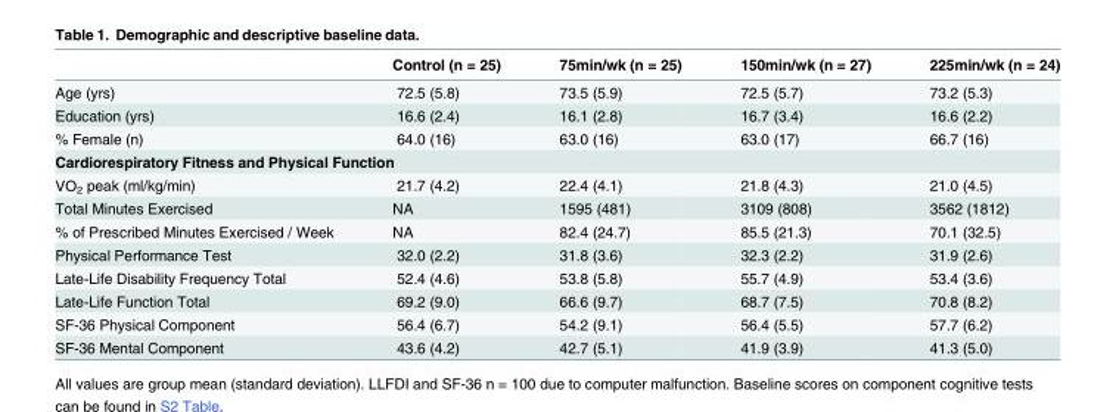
<table><thead><tr><td></td><td>Control (n = 25)</td><td>75min/wk (n = 25)</td><td>150min/wk (n = 27)</td><td>225min/wk (n = 24)</td></tr></thead><tbody><tr><td>Age (yrs)</td><td>72.5 (5.8)</td><td>73.5 (5.9)</td><td>72.5 (5.7)</td><td>73.2 (5.3)</td></tr><tr><td>Education (yrs)</td><td>16.6 (2.4)</td><td>16.1 (2.8)</td><td>16.7 (3.4)</td><td>16.6 (2.2)</td></tr><tr><td>% Female (n)</td><td>64.0 (16)</td><td>63.0 (16)</td><td>63.0 (17)</td><td>66.7 (16)</td></tr><tr><td colspan="5">Cardiorespiratory Fitness and Physical Function</td></tr><tr><td>VO<sub>2</sub> peak (ml/kg/min)</td><td>21.7 (4.2)</td><td>22.4 (4.1)</td><td>21.8 (4.3)</td><td>21.0 (4.5)</td></tr><tr><td>Total Minutes Exercised</td><td>NA</td><td>1595 (481)</td><td>3109 (808)</td><td>3562 (1812)</td></tr><tr><td>% of Prescribed Minutes Exercised / Week</td><td>NA</td><td>82.4 (24.7)</td><td>85.5 (21.3)</td><td>70.1 (32.5)</td></tr><tr><td>Physical Performance Test</td><td>32.0 (2.2)</td><td>31.8 (3.6)</td><td>32.3 (2.2)</td><td>31.9 (2.6)</td></tr><tr><td>Late-Life Disability Frequency Total</td><td>52.4 (4.6)</td><td>53.8 (5.8)</td><td>55.7 (4.9)</td><td>53.4 (3.6)</td></tr><tr><td>Late-Life Function Total</td><td>69.2 (9.0)</td><td>66.6 (9.7)</td><td>68.7 (7.5)</td><td>70.8 (8.2)</td></tr><tr><td>SF-36 Physical Component</td><td>56.4 (6.7)</td><td>54.2 (9.1)</td><td>56.4 (5.5)</td><td>57.7 (6.2)</td></tr><tr><td>SF-36 Mental Component</td><td>43.6 (4.2)</td><td>42.7 (5.1)</td><td>41.9 (3.9)</td><td>41.3 (5.0)</td></tr></tbody></table>